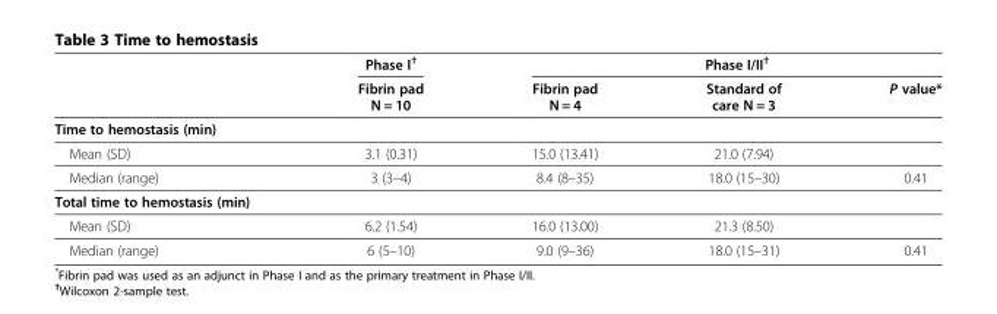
<table><thead><tr><td rowspan="2"></td><td rowspan="2">Phase I<sup>†</sup> Fibrin pad N = 10</td><td colspan="3">Phase I/II<sup>†</sup></td></tr><tr><td>Fibrin pad N = 4</td><td>Standard of care N = 3</td><td>P value*</td></tr></thead><tbody><tr><td colspan="5">Time to hemostasis (min)</td></tr><tr><td>Mean (SD)</td><td>3.1 (0.31)</td><td>15.0 (13.41)</td><td>21.0 (7.94)</td><td></td></tr><tr><td>Median (range)</td><td>3 (3–4)</td><td>8.4 (8–35)</td><td>18.0 (15–30)</td><td>0.41</td></tr><tr><td colspan="5">Total time to hemostasis (min)</td></tr><tr><td>Mean (SD)</td><td>6.2 (1.54)</td><td>16.0 (13.00)</td><td>21.3 (8.50)</td><td></td></tr><tr><td>Median (range)</td><td>6 (5–10)</td><td>9.0 (9–36)</td><td>18.0 (15–31)</td><td>0.41</td></tr></tbody></table>